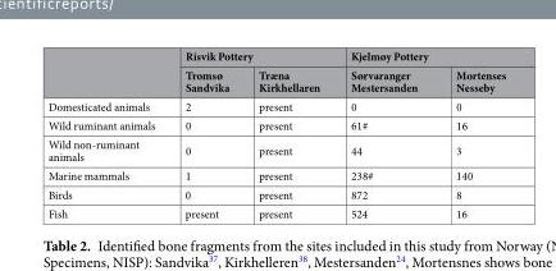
<table><thead><tr><td rowspan="2"></td><td colspan="2">Risvik Pottery</td><td colspan="2">Kjelmøy Pottery</td></tr><tr><td>Tromsø Sandvika</td><td>Træna Kirkhellaren</td><td>Sørvaranger Mestersanden</td><td>Mortenses Nesseby</td></tr></thead><tbody><tr><td>Domesticated animals</td><td>2</td><td>present</td><td>0</td><td>0</td></tr><tr><td>Wild ruminant animals</td><td>0</td><td>present</td><td>61#</td><td>16</td></tr><tr><td>Wild non-ruminant animals</td><td>0</td><td>present</td><td>44</td><td>3</td></tr><tr><td>Marine mammals</td><td>1</td><td>present</td><td>238#</td><td>140</td></tr><tr><td>Birds</td><td>0</td><td>present</td><td>872</td><td>8</td></tr><tr><td>Fish</td><td>present</td><td>present</td><td>524</td><td>16</td></tr></tbody></table>